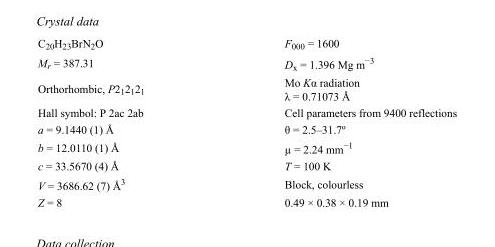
<table><tbody><tr><td>C<sub>20</sub>H<sub>23</sub>BrN<sub>2</sub>O</td><td>F000 = 1600</td></tr><tr><td>M<sub>r</sub> = 387.31</td><td>D<sub>x</sub> = 1.396 Mg m<sup>−3</sup></td></tr><tr><td>Orthorhombic, P2<sub>1</sub>2<sub>1</sub>2<sub>1</sub></td><td>Mo Kα radiation λ = 0.71073 Å</td></tr><tr><td>Hall symbol: P 2ac 2ab</td><td>Cell parameters from 9400 reflections</td></tr><tr><td>a = 9.1440 (1) Å</td><td>θ = 2.5–31.7º</td></tr><tr><td>b = 12.0110 (1) Å</td><td>µ = 2.24 mm<sup>−1</sup></td></tr><tr><td>c = 33.5670 (4) Å</td><td>T = 100 K</td></tr><tr><td>V = 3686.62 (7) Å<sup>3</sup></td><td>Block, colourless</td></tr><tr><td>Z = 8</td><td>0.49 × 0.38 × 0.19 mm</td></tr></tbody></table>